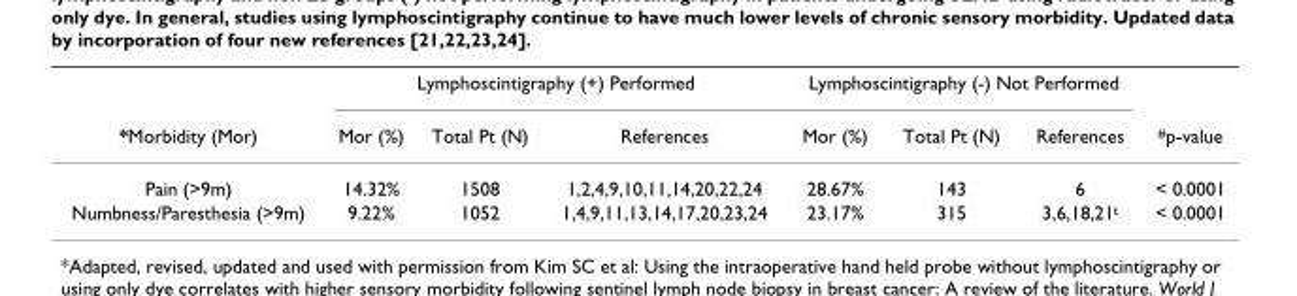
<table><thead><tr><td rowspan="2">*Morbidity (Mor)</td><td colspan="3">Lymphoscintigraphy (+) Performed</td><td colspan="3">Lymphoscintigraphy (-) Not Performed</td><td rowspan="2"><sup>#</sup>p-value</td></tr><tr><td>Mor (%)</td><td>Total Pt (N)</td><td>References</td><td>Mor (%)</td><td>Total Pt (N)</td><td>References</td></tr></thead><tbody><tr><td>Pain (&gt;9m)</td><td>14.32%</td><td>1508</td><td>1,2,4,9,10,11,14,20,22,24</td><td>28.67%</td><td>143</td><td>6</td><td>&lt; 0.0001</td></tr><tr><td>Numbness/Paresthesia (&gt;9m)</td><td>9.22%</td><td>1052</td><td>1,4,9,11,13,14,17,20,23,24</td><td>23.17%</td><td>315</td><td>3,6,18,21<sup>t</sup></td><td>&lt; 0.0001</td></tr></tbody></table>